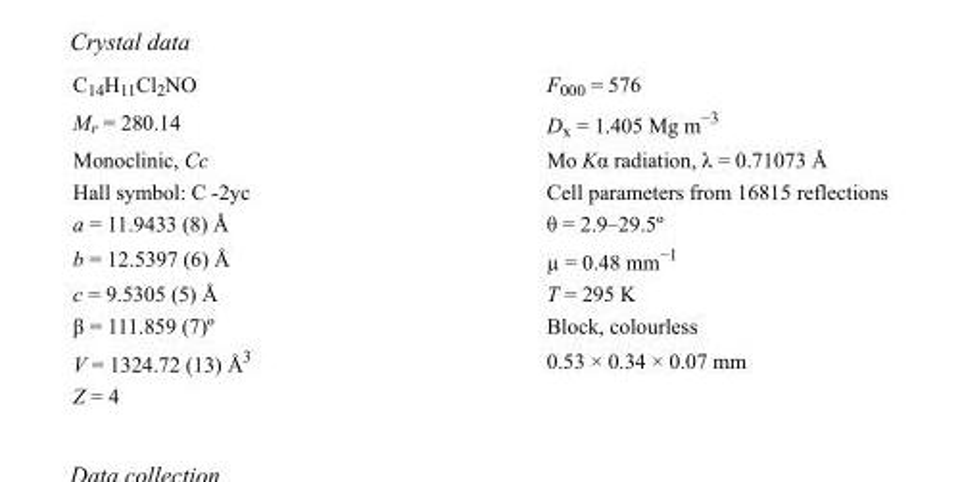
<table><tbody><tr><td>C<sub>14</sub>H<sub>11</sub>Cl<sub>2</sub>NO</td><td>F000 = 576</td></tr><tr><td>M<sub>r</sub> = 280.14</td><td>D<sub>x</sub> = 1.405 Mg m<sup>−3</sup></td></tr><tr><td>Monoclinic, Cc</td><td>Mo Kα radiation, λ = 0.71073 Å</td></tr><tr><td>Hall symbol: C -2yc</td><td>Cell parameters from 16815 reflections</td></tr><tr><td>a = 11.9433 (8) Å</td><td>θ = 2.9–29.5º</td></tr><tr><td>b = 12.5397 (6) Å</td><td>µ = 0.48 mm<sup>−1</sup></td></tr><tr><td>c = 9.5305 (5) Å</td><td>T = 295 K</td></tr><tr><td>β = 111.859 (7)º</td><td>Block, colourless</td></tr><tr><td>V = 1324.72 (13) Å<sup>3</sup></td><td>0.53 × 0.34 × 0.07 mm</td></tr><tr><td>Z = 4</td><td></td></tr></tbody></table>